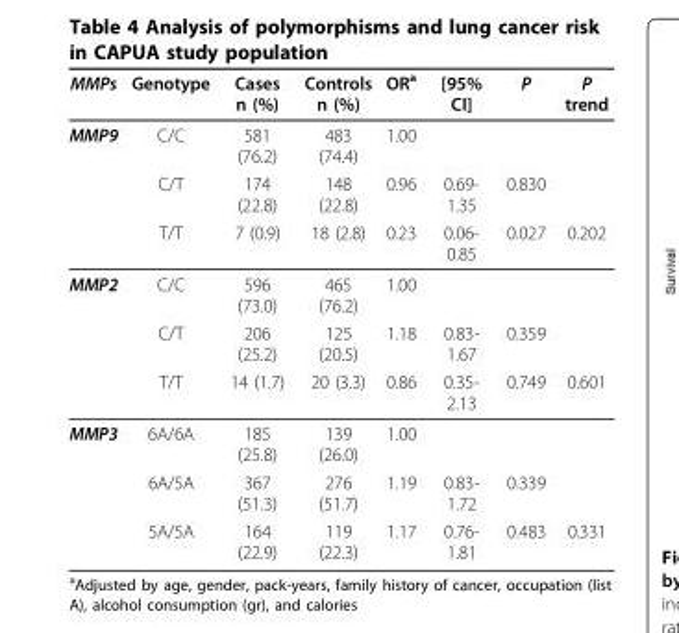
<table><thead><tr><td>MMPs</td><td>Genotype</td><td>Cases n (%)</td><td>Controls n (%)</td><td>OR<sup>a</sup></td><td>[95% CI]</td><td>P</td><td>P trend</td></tr></thead><tbody><tr><td rowspan="3">MMP9</td><td>C/C</td><td>581 (76.2)</td><td>483 (74.4)</td><td>1.00</td><td></td><td></td><td></td></tr><tr><td>C/T</td><td>174 (22.8)</td><td>148 (22.8)</td><td>0.96</td><td>0.69- 1.35</td><td>0.830</td><td></td></tr><tr><td>T/T</td><td>7 (0.9)</td><td>18 (2.8)</td><td>0.23</td><td>0.06- 0.85</td><td>0.027</td><td>0.202</td></tr><tr><td rowspan="3">MMP2</td><td>C/C</td><td>596 (73.0)</td><td>465 (76.2)</td><td>1.00</td><td></td><td></td><td></td></tr><tr><td>C/T</td><td>206 (25.2)</td><td>125 (20.5)</td><td>1.18</td><td>0.83- 1.67</td><td>0.359</td><td></td></tr><tr><td>T/T</td><td>14 (1.7)</td><td>20 (3.3)</td><td>0.86</td><td>0.35- 2.13</td><td>0.749</td><td>0.601</td></tr><tr><td rowspan="3">MMP3</td><td>6A/6A</td><td>185 (25.8)</td><td>139 (26.0)</td><td>1.00</td><td></td><td></td><td></td></tr><tr><td>6A/5A</td><td>367 (51.3)</td><td>276 (51.7)</td><td>1.19</td><td>0.83- 1.72</td><td>0.339</td><td></td></tr><tr><td>5A/5A</td><td>164 (22.9)</td><td>119 (22.3)</td><td>1.17</td><td>0.76- 1.81</td><td>0.483</td><td>0.331</td></tr></tbody></table>